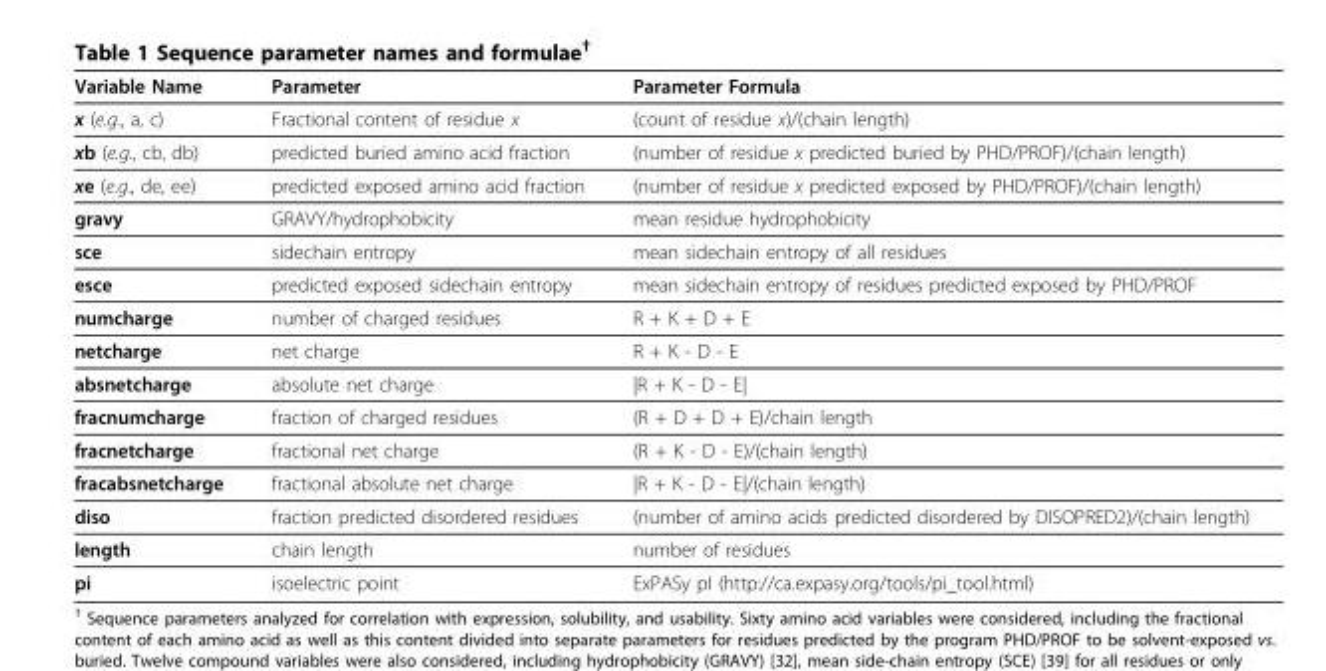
<table><thead><tr><td>Variable Name</td><td>Parameter</td><td>Parameter Formula</td></tr></thead><tbody><tr><td>x (e.g., a, c)</td><td>Fractional content of residue x</td><td>(count of residue x)/(chain length)</td></tr><tr><td>xb (e.g., cb, db)</td><td>predicted buried amino acid fraction</td><td>(number of residue x predicted buried by PHD/PROF)/(chain length)</td></tr><tr><td>xe (e.g., de, ee)</td><td>predicted exposed amino acid fraction</td><td>(number of residue x predicted exposed by PHD/PROF)/(chain length)</td></tr><tr><td>gravy</td><td>GRAVY/hydrophobicity</td><td>mean residue hydrophobicity</td></tr><tr><td>sce</td><td>sidechain entropy</td><td>mean sidechain entropy of all residues</td></tr><tr><td>esce</td><td>predicted exposed sidechain entropy</td><td>mean sidechain entropy of residues predicted exposed by PHD/PROF</td></tr><tr><td>numcharge</td><td>number of charged residues</td><td>R + K + D + E</td></tr><tr><td>netcharge</td><td>net charge</td><td>R + K - D - E</td></tr><tr><td>absnetcharge</td><td>absolute net charge</td><td>|R + K - D - E|</td></tr><tr><td>fracnumcharge</td><td>fraction of charged residues</td><td>(R + D + D + E)/chain length</td></tr><tr><td>fracnetcharge</td><td>fractional net charge</td><td>(R + K - D - E)/(chain length)</td></tr><tr><td>fracabsnetcharge</td><td>fractional absolute net charge</td><td>|R + K - D - E|/(chain length)</td></tr><tr><td>diso</td><td>fraction predicted disordered residues</td><td>(number of amino acids predicted disordered by DISOPRED2)/(chain length)</td></tr><tr><td>length</td><td>chain length</td><td>number of residues</td></tr><tr><td>pi</td><td>isoelectric point</td><td>ExPASy pI (http://ca.expasy.org/tools/pi_tool.html)</td></tr></tbody></table>